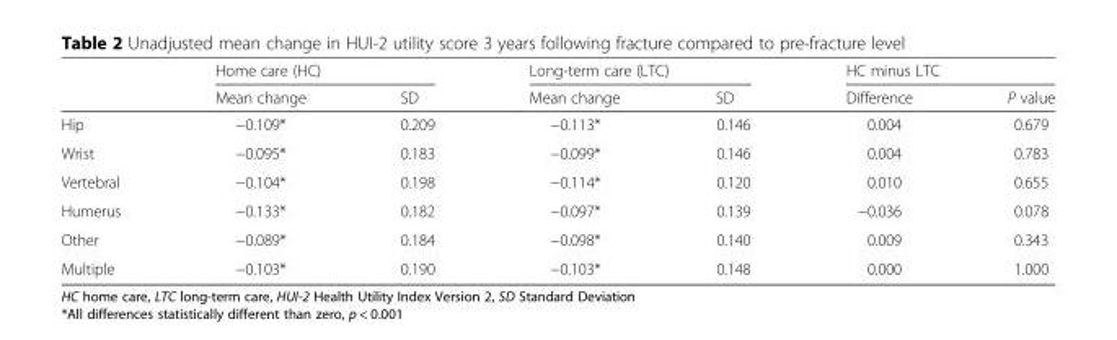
<table><thead><tr><td rowspan="2"></td><td colspan="2">Home care (HC)</td><td colspan="2">Long-term care (LTC)</td><td colspan="2">HC minus LTC</td></tr><tr><td>Mean change</td><td>SD</td><td>Mean change</td><td>SD</td><td>Difference</td><td>P value</td></tr></thead><tbody><tr><td>Hip</td><td>−0.109*</td><td>0.209</td><td>−0.113*</td><td>0.146</td><td>0.004</td><td>0.679</td></tr><tr><td>Wrist</td><td>−0.095*</td><td>0.183</td><td>−0.099*</td><td>0.146</td><td>0.004</td><td>0.783</td></tr><tr><td>Vertebral</td><td>−0.104*</td><td>0.198</td><td>−0.114*</td><td>0.120</td><td>0.010</td><td>0.655</td></tr><tr><td>Humerus</td><td>−0.133*</td><td>0.182</td><td>−0.097*</td><td>0.139</td><td>−0.036</td><td>0.078</td></tr><tr><td>Other</td><td>−0.089*</td><td>0.184</td><td>−0.098*</td><td>0.140</td><td>0.009</td><td>0.343</td></tr><tr><td>Multiple</td><td>−0.103*</td><td>0.190</td><td>−0.103*</td><td>0.148</td><td>0.000</td><td>1.000</td></tr></tbody></table>